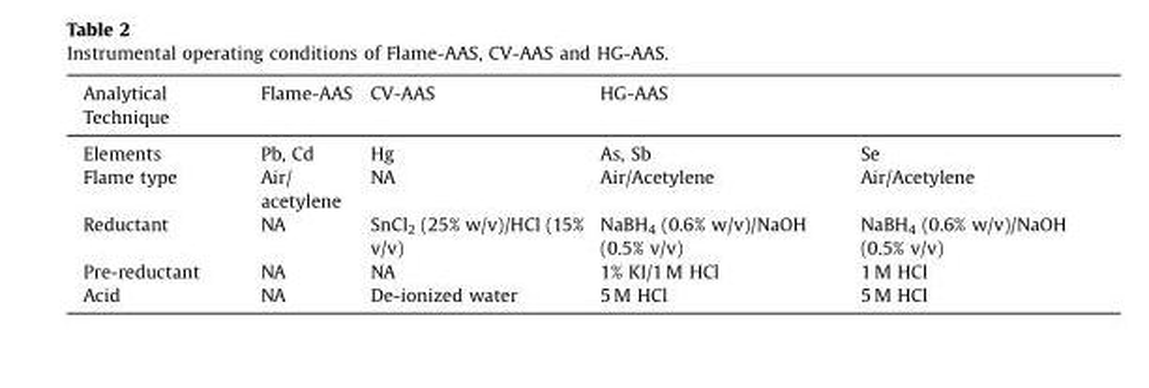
<table><thead><tr><td rowspan="2">Analytical Technique Elements</td><td rowspan="2">Flame-AAS Pb, Cd</td><td rowspan="2">CV-AAS Hg</td><td colspan="2">HG-AAS</td></tr><tr><td>As, Sb</td><td>Se</td></tr></thead><tbody><tr><td>Flame type</td><td>Air/ acetylene</td><td>NA</td><td>Air/Acetylene</td><td>Air/Acetylene</td></tr><tr><td>Reductant</td><td>NA</td><td>SnCl<sub>2</sub> (25% w/v)/HCl (15% v/v)</td><td>NaBH<sub>4</sub> (0.6% w/v)/NaOH (0.5% v/v)</td><td>NaBH<sub>4</sub> (0.6% w/v)/NaOH (0.5% v/v)</td></tr><tr><td>Pre-reductant</td><td>NA</td><td>NA</td><td>1% KI/1 M HCl</td><td>1 M HCl</td></tr><tr><td>Acid</td><td>NA</td><td>De-ionized water</td><td>5 M HCl</td><td>5 M HCl</td></tr></tbody></table>